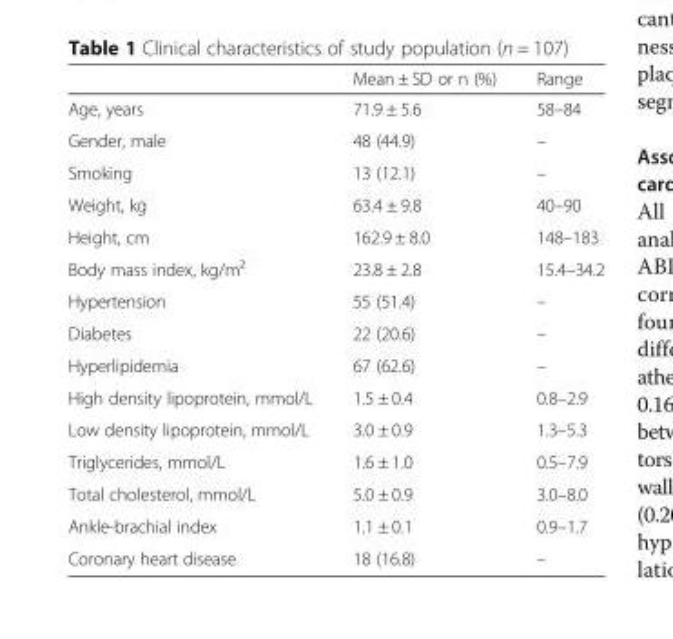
<table><thead><tr><td></td><td>Mean ± SD or n (%)</td><td>Range</td></tr></thead><tbody><tr><td>Age, years</td><td>71.9 ± 5.6</td><td>58–84</td></tr><tr><td>Gender, male</td><td>48 (44.9)</td><td>–</td></tr><tr><td>Smoking</td><td>13 (12.1)</td><td>–</td></tr><tr><td>Weight, kg</td><td>63.4 ± 9.8</td><td>40–90</td></tr><tr><td>Height, cm</td><td>162.9 ± 8.0</td><td>148–183</td></tr><tr><td>Body mass index, kg/m²</td><td>23.8 ± 2.8</td><td>15.4–34.2</td></tr><tr><td>Hypertension</td><td>55 (51.4)</td><td>–</td></tr><tr><td>Diabetes</td><td>22 (20.6)</td><td>–</td></tr><tr><td>Hyperlipidemia</td><td>67 (62.6)</td><td>–</td></tr><tr><td>High density lipoprotein, mmol/L</td><td>1.5 ± 0.4</td><td>0.8–2.9</td></tr><tr><td>Low density lipoprotein, mmol/L</td><td>3.0 ± 0.9</td><td>1.3–5.3</td></tr><tr><td>Triglycerides, mmol/L</td><td>1.6 ± 1.0</td><td>0.5–7.9</td></tr><tr><td>Total cholesterol, mmol/L</td><td>5.0 ± 0.9</td><td>3.0–8.0</td></tr><tr><td>Ankle-brachial index</td><td>1.1 ± 0.1</td><td>0.9–1.7</td></tr><tr><td>Coronary heart disease</td><td>18 (16.8)</td><td>–</td></tr></tbody></table>